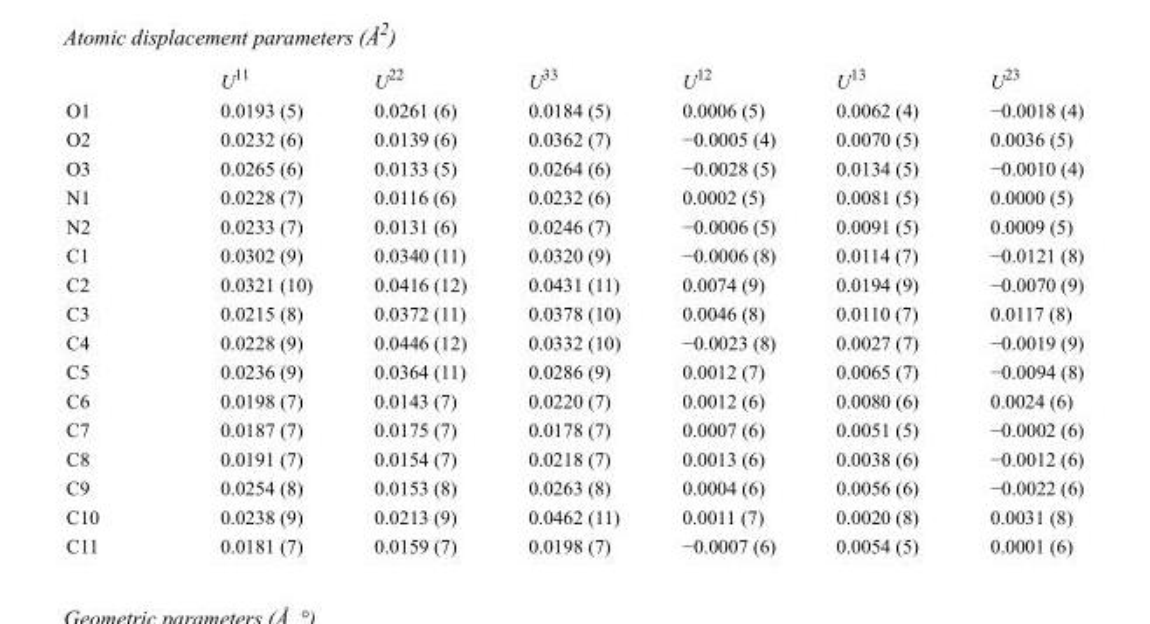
<table><thead><tr><td></td><td>U<sup>11</sup></td><td>U<sup>22</sup></td><td>U<sup>33</sup></td><td>U<sup>12</sup></td><td>U<sup>13</sup></td><td>U<sup>23</sup></td></tr></thead><tbody><tr><td>O1</td><td>0.0193 (5)</td><td>0.0261 (6)</td><td>0.0184 (5)</td><td>0.0006 (5)</td><td>0.0062 (4)</td><td>−0.0018 (4)</td></tr><tr><td>O2</td><td>0.0232 (6)</td><td>0.0139 (6)</td><td>0.0362 (7)</td><td>−0.0005 (4)</td><td>0.0070 (5)</td><td>0.0036 (5)</td></tr><tr><td>O3</td><td>0.0265 (6)</td><td>0.0133 (5)</td><td>0.0264 (6)</td><td>−0.0028 (5)</td><td>0.0134 (5)</td><td>−0.0010 (4)</td></tr><tr><td>N1</td><td>0.0228 (7)</td><td>0.0116 (6)</td><td>0.0232 (6)</td><td>0.0002 (5)</td><td>0.0081 (5)</td><td>0.0000 (5)</td></tr><tr><td>N2</td><td>0.0233 (7)</td><td>0.0131 (6)</td><td>0.0246 (7)</td><td>−0.0006 (5)</td><td>0.0091 (5)</td><td>0.0009 (5)</td></tr><tr><td>C1</td><td>0.0302 (9)</td><td>0.0340 (11)</td><td>0.0320 (9)</td><td>−0.0006 (8)</td><td>0.0114 (7)</td><td>−0.0121 (8)</td></tr><tr><td>C2</td><td>0.0321 (10)</td><td>0.0416 (12)</td><td>0.0431 (11)</td><td>0.0074 (9)</td><td>0.0194 (9)</td><td>−0.0070 (9)</td></tr><tr><td>C3</td><td>0.0215 (8)</td><td>0.0372 (11)</td><td>0.0378 (10)</td><td>0.0046 (8)</td><td>0.0110 (7)</td><td>0.0117 (8)</td></tr><tr><td>C4</td><td>0.0228 (9)</td><td>0.0446 (12)</td><td>0.0332 (10)</td><td>−0.0023 (8)</td><td>0.0027 (7)</td><td>−0.0019 (9)</td></tr><tr><td>C5</td><td>0.0236 (9)</td><td>0.0364 (11)</td><td>0.0286 (9)</td><td>0.0012 (7)</td><td>0.0065 (7)</td><td>−0.0094 (8)</td></tr><tr><td>C6</td><td>0.0198 (7)</td><td>0.0143 (7)</td><td>0.0220 (7)</td><td>0.0012 (6)</td><td>0.0080 (6)</td><td>0.0024 (6)</td></tr><tr><td>C7</td><td>0.0187 (7)</td><td>0.0175 (7)</td><td>0.0178 (7)</td><td>0.0007 (6)</td><td>0.0051 (5)</td><td>−0.0002 (6)</td></tr><tr><td>C8</td><td>0.0191 (7)</td><td>0.0154 (7)</td><td>0.0218 (7)</td><td>0.0013 (6)</td><td>0.0038 (6)</td><td>−0.0012 (6)</td></tr><tr><td>C9</td><td>0.0254 (8)</td><td>0.0153 (8)</td><td>0.0263 (8)</td><td>0.0004 (6)</td><td>0.0056 (6)</td><td>−0.0022 (6)</td></tr><tr><td>C10</td><td>0.0238 (9)</td><td>0.0213 (9)</td><td>0.0462 (11)</td><td>0.0011 (7)</td><td>0.0020 (8)</td><td>0.0031 (8)</td></tr><tr><td>C11</td><td>0.0181 (7)</td><td>0.0159 (7)</td><td>0.0198 (7)</td><td>−0.0007 (6)</td><td>0.0054 (5)</td><td>0.0001 (6)</td></tr></tbody></table>